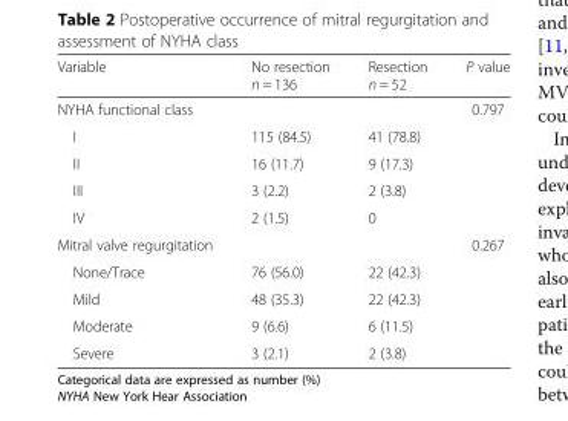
<table><thead><tr><td>Variable</td><td>No resection n = 136</td><td>Resection n = 52</td><td>P value</td></tr></thead><tbody><tr><td colspan="2">NYHA functional class</td><td></td><td>0.797</td></tr><tr><td>I</td><td>115 (84.5)</td><td>41 (78.8)</td><td></td></tr><tr><td>II</td><td>16 (11.7)</td><td>9 (17.3)</td><td></td></tr><tr><td>III</td><td>3 (2.2)</td><td>2 (3.8)</td><td></td></tr><tr><td>IV</td><td>2 (1.5)</td><td>0</td><td></td></tr><tr><td>Mitral valve regurgitation</td><td></td><td></td><td>0.267</td></tr><tr><td>None/Trace</td><td>76 (56.0)</td><td>22 (42.3)</td><td></td></tr><tr><td>Mild</td><td>48 (35.3)</td><td>22 (42.3)</td><td></td></tr><tr><td>Moderate</td><td>9 (6.6)</td><td>6 (11.5)</td><td></td></tr><tr><td>Severe</td><td>3 (2.1)</td><td>2 (3.8)</td><td></td></tr></tbody></table>